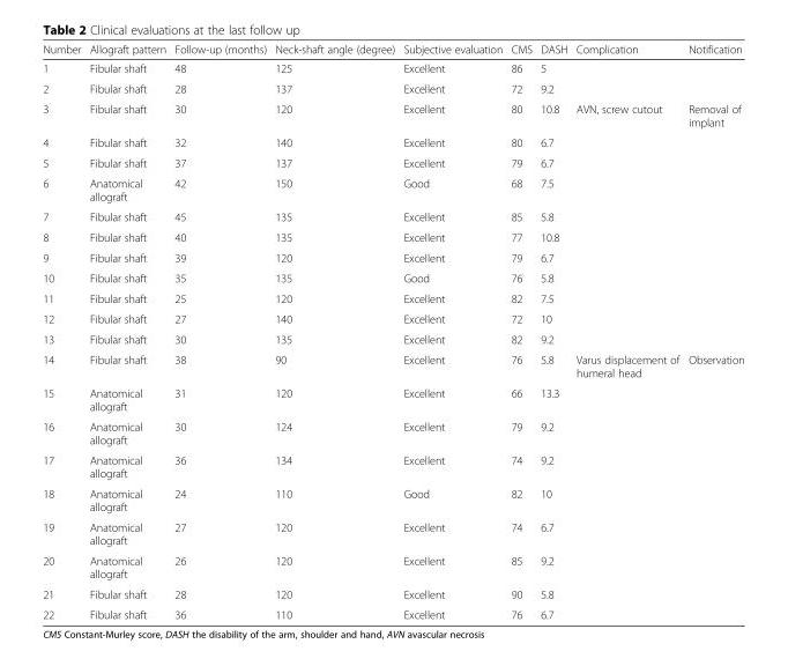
<table><thead><tr><td>Number</td><td>Allograft pattern</td><td>Follow-up (months)</td><td>Neck-shaft angle (degree)</td><td>Subjective evaluation</td><td>CMS</td><td>DASH</td><td>Complication</td><td>Notification</td></tr></thead><tbody><tr><td>1</td><td>Fibular shaft</td><td>48</td><td>125</td><td>Excellent</td><td>86</td><td>5</td><td></td><td></td></tr><tr><td>2</td><td>Fibular shaft</td><td>28</td><td>137</td><td>Excellent</td><td>72</td><td>9.2</td><td></td><td></td></tr><tr><td>3</td><td>Fibular shaft</td><td>30</td><td>120</td><td>Excellent</td><td>80</td><td>10.8</td><td>AVN, screw cutout</td><td>Removal of implant</td></tr><tr><td>4</td><td>Fibular shaft</td><td>32</td><td>140</td><td>Excellent</td><td>80</td><td>6.7</td><td></td><td></td></tr><tr><td>5</td><td>Fibular shaft</td><td>37</td><td>137</td><td>Excellent</td><td>79</td><td>6.7</td><td></td><td></td></tr><tr><td>6</td><td>Anatomical allograft</td><td>42</td><td>150</td><td>Good</td><td>68</td><td>7.5</td><td></td><td></td></tr><tr><td>7</td><td>Fibular shaft</td><td>45</td><td>135</td><td>Excellent</td><td>85</td><td>5.8</td><td></td><td></td></tr><tr><td>8</td><td>Fibular shaft</td><td>40</td><td>135</td><td>Excellent</td><td>77</td><td>10.8</td><td></td><td></td></tr><tr><td>9</td><td>Fibular shaft</td><td>39</td><td>120</td><td>Excellent</td><td>79</td><td>6.7</td><td></td><td></td></tr><tr><td>10</td><td>Fibular shaft</td><td>35</td><td>135</td><td>Good</td><td>76</td><td>5.8</td><td></td><td></td></tr><tr><td>11</td><td>Fibular shaft</td><td>25</td><td>120</td><td>Excellent</td><td>82</td><td>7.5</td><td></td><td></td></tr><tr><td>12</td><td>Fibular shaft</td><td>27</td><td>140</td><td>Excellent</td><td>72</td><td>10</td><td></td><td></td></tr><tr><td>13</td><td>Fibular shaft</td><td>30</td><td>135</td><td>Excellent</td><td>82</td><td>9.2</td><td></td><td></td></tr><tr><td>14</td><td>Fibular shaft</td><td>38</td><td>90</td><td>Excellent</td><td>76</td><td>5.8</td><td>Varus displacement of humeral head</td><td>Observation</td></tr><tr><td>15</td><td>Anatomical allograft</td><td>31</td><td>120</td><td>Excellent</td><td>66</td><td>13.3</td><td></td><td></td></tr><tr><td>16</td><td>Anatomical allograft</td><td>30</td><td>124</td><td>Excellent</td><td>79</td><td>9.2</td><td></td><td></td></tr><tr><td>17</td><td>Anatomical allograft</td><td>36</td><td>134</td><td>Excellent</td><td>74</td><td>9.2</td><td></td><td></td></tr><tr><td>18</td><td>Anatomical allograft</td><td>24</td><td>110</td><td>Good</td><td>82</td><td>10</td><td></td><td></td></tr><tr><td>19</td><td>Anatomical allograft</td><td>27</td><td>120</td><td>Excellent</td><td>74</td><td>6.7</td><td></td><td></td></tr><tr><td>20</td><td>Anatomical allograft</td><td>26</td><td>120</td><td>Excellent</td><td>85</td><td>9.2</td><td></td><td></td></tr><tr><td>21</td><td>Fibular shaft</td><td>28</td><td>120</td><td>Excellent</td><td>90</td><td>5.8</td><td></td><td></td></tr><tr><td>22</td><td>Fibular shaft</td><td>36</td><td>110</td><td>Excellent</td><td>76</td><td>6.7</td><td></td><td></td></tr></tbody></table>